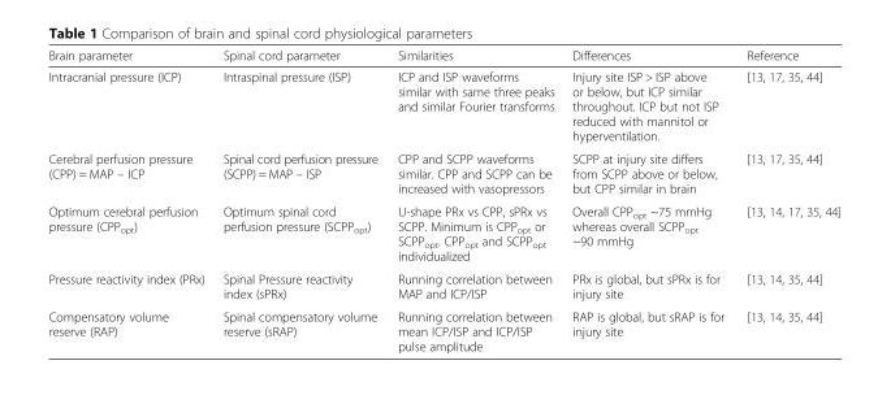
<table><thead><tr><td>Brain parameter</td><td>Spinal cord parameter</td><td>Similarities</td><td>Differences</td><td>Reference</td></tr></thead><tbody><tr><td>Intracranial pressure (ICP)</td><td>Intraspinal pressure (ISP)</td><td>ICP and ISP waveforms similar with same three peaks and similar Fourier transforms</td><td>Injury site ISP &gt; ISP above or below, but ICP similar throughout. ICP but not ISP reduced with mannitol or hyperventilation.</td><td>[13, 17, 35, 44]</td></tr><tr><td>Cerebral perfusion pressure (CPP) = MAP – ICP</td><td>Spinal cord perfusion pressure (SCPP) = MAP – ISP</td><td>CPP and SCPP waveforms similar. CPP and SCPP can be increased with vasopressors</td><td>SCPP at injury site differs from SCPP above or below, but CPP similar in brain</td><td>[13, 17, 35, 44]</td></tr><tr><td>Optimum cerebral perfusion pressure (CPP<sub>opt</sub>)</td><td>Optimum spinal cord perfusion pressure (SCPP<sub>opt</sub>)</td><td>U-shape PRx vs CPP, sPRx vs SCPP. Minimum is CPP<sub>opt</sub> or SCPP<sub>opt</sub>. CPP<sub>opt</sub> and SCPP<sub>opt</sub> individualized</td><td>Overall CPP<sub>opt</sub> ~75 mmHg whereas overall SCPP<sub>opt</sub> ~90 mmHg</td><td>[13, 14, 17, 35, 44]</td></tr><tr><td>Pressure reactivity index (PRx)</td><td>Spinal Pressure reactivity index (sPRx)</td><td>Running correlation between MAP and ICP/ISP</td><td>PRx is global, but sPRx is for injury site</td><td>[13, 14, 35, 44]</td></tr><tr><td>Compensatory volume reserve (RAP)</td><td>Spinal compensatory volume reserve (sRAP)</td><td>Running correlation between mean ICP/ISP and ICP/ISP pulse amplitude</td><td>RAP is global, but sRAP is for injury site</td><td>[13, 14, 35, 44]</td></tr></tbody></table>